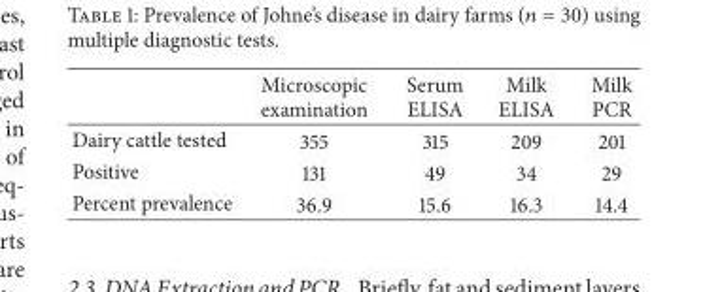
<table><thead><tr><td></td><td>Microscopic examination</td><td>Serum ELISA</td><td>Milk ELISA</td><td>Milk PCR</td></tr></thead><tbody><tr><td>Dairy cattle tested</td><td>355</td><td>315</td><td>209</td><td>201</td></tr><tr><td>Positive</td><td>131</td><td>49</td><td>34</td><td>29</td></tr><tr><td>Percent prevalence</td><td>36.9</td><td>15.6</td><td>16.3</td><td>14.4</td></tr></tbody></table>